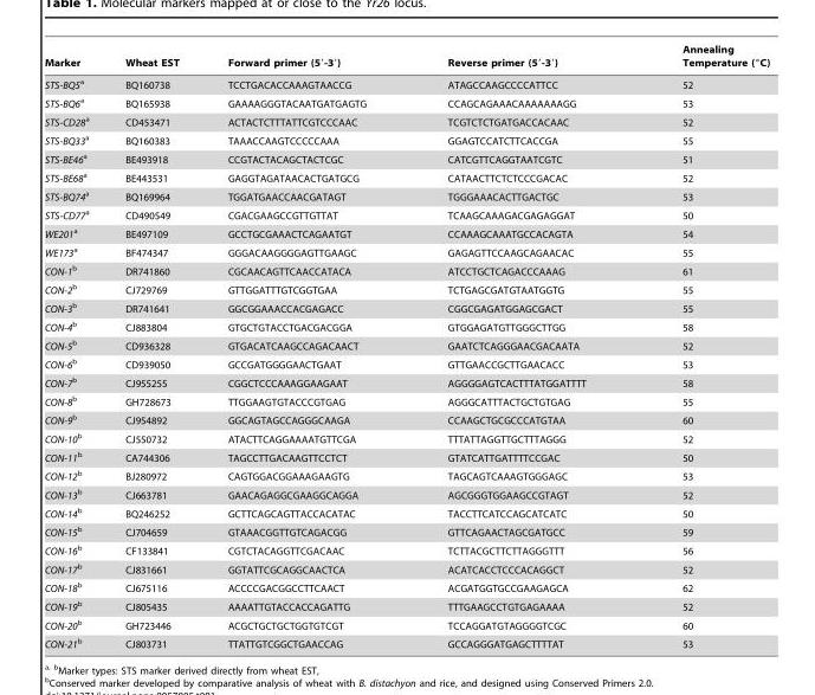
<table><thead><tr><td>Marker</td><td>Wheat EST</td><td>Forward primer (5′-3′)</td><td>Reverse primer (5′-3′)</td><td>Annealing Temperature (°C)</td></tr></thead><tbody><tr><td>STS-BQ5<sup>a</sup></td><td>BQ160738</td><td>TCCTGACACCAAAGTAACCG</td><td>ATAGCCAAGCCCCATTCC</td><td>52</td></tr><tr><td>STS-BQ6<sup>a</sup></td><td>BQ165938</td><td>GAAAAGGGTACAATGATGAGTG</td><td>CCAGCAGAAACAAAAAAAGG</td><td>53</td></tr><tr><td>STS-CD28<sup>a</sup></td><td>CD453471</td><td>ACTACTCTTTATTCGTCCCAAC</td><td>TCGTCTCTGATGACCACAAC</td><td>52</td></tr><tr><td>STS-BQ33<sup>a</sup></td><td>BQ160383</td><td>TAAACCAAGTCCCCCAAA</td><td>GGAGTCCATCTTCACCGA</td><td>55</td></tr><tr><td>STS-BE46<sup>a</sup></td><td>BE493918</td><td>CCGTACTACAGCTACTCGC</td><td>CATCGTTCAGGTAATCGTC</td><td>51</td></tr><tr><td>STS-BE68<sup>a</sup></td><td>BE443531</td><td>GAGGTAGATAACACTGATGCG</td><td>CATAACTTCTCTCCCGACAC</td><td>52</td></tr><tr><td>STS-BQ74<sup>a</sup></td><td>BQ169964</td><td>TGGATGAACCAACGATAGT</td><td>TGGGAAACACTTGACTGC</td><td>53</td></tr><tr><td>STS-CD77<sup>a</sup></td><td>CD490549</td><td>CGACGAAGCCGTTGTTAT</td><td>TCAAGCAAAGACGAGAGGAT</td><td>50</td></tr><tr><td>WE201<sup>a</sup></td><td>BE497109</td><td>GCCTGCGAAACTCAGAATGT</td><td>CCAAAGCAAATGCCACAGTA</td><td>54</td></tr><tr><td>WE173<sup>a</sup></td><td>BF474347</td><td>GGGACAAGGGGAGTTGAAGC</td><td>GAGAGTTCCAAGCAGAACAC</td><td>55</td></tr><tr><td>CON-1b</td><td>DR741860</td><td>CGCAACAGTTCAACCATACA</td><td>ATCCTGCTCAGACCCAAAG</td><td>61</td></tr><tr><td>CON-2b</td><td>CJ729769</td><td>GTTGGATTTGTCGGTGAA</td><td>TCTGAGCGATGTAATGGTG</td><td>55</td></tr><tr><td>CON-3b</td><td>DR741641</td><td>GGCGGAAACCACGAGACC</td><td>CGGCGAGATGGAGCGACT</td><td>55</td></tr><tr><td>CON-4b</td><td>CJ883804</td><td>GTGCTGTACCTGACGACGGA</td><td>GTGGAGATGTTGGGCTTGG</td><td>58</td></tr><tr><td>CON-5b</td><td>CD936328</td><td>GTGACATCAAGCCAGACAACT</td><td>GAATCTCAGGGAACGACAATA</td><td>52</td></tr><tr><td>CON-6b</td><td>CD939050</td><td>GCCGATGGGGAACTGAAT</td><td>GTTGAACCGCTTGAACACC</td><td>53</td></tr><tr><td>CON-7b</td><td>CJ955255</td><td>CGGCTCCCAAAGGAAGAAT</td><td>AGGGGAGTCACTTTATGGATTTT</td><td>58</td></tr><tr><td>CON-8b</td><td>GH728673</td><td>TTGGAAGTGTACCCGTGAG</td><td>AGGGCATTTACTGCTGTGAG</td><td>55</td></tr><tr><td>CON-9b</td><td>CJ954892</td><td>GGCAGTAGCCAGGGCAAGA</td><td>CCAAGCTGCGCCCATGTAA</td><td>60</td></tr><tr><td>CON-10b</td><td>CJ550732</td><td>ATACTTCAGGAAAATGTTCGA</td><td>TTTATTAGGTTGCTTTAGGG</td><td>52</td></tr><tr><td>CON-11b</td><td>CA744306</td><td>TAGCCTTGACAAGTTCCTCT</td><td>GTATCATTGATTTTCCGAC</td><td>50</td></tr><tr><td>CON-12b</td><td>BJ280972</td><td>CAGTGGACGGAAAGAAGTG</td><td>TAGCAGTCAAAGTGGGAGC</td><td>53</td></tr><tr><td>CON-13b</td><td>CJ663781</td><td>GAACAGAGGCGAAGGCAGGA</td><td>AGCGGGTGGAAGCCGTAGT</td><td>52</td></tr><tr><td>CON-14b</td><td>BQ246252</td><td>GCTTCAGCAGTTACCACATAC</td><td>TACCTTCATCCAGCATCATC</td><td>50</td></tr><tr><td>CON-15b</td><td>CJ704659</td><td>GTAAACGGTTGTCAGACGG</td><td>GTTCAGAACTAGCGATGCC</td><td>59</td></tr><tr><td>CON-16b</td><td>CF133841</td><td>CGTCTACAGGTTCGACAAC</td><td>TCTTACGCTTCTTAGGGTTT</td><td>56</td></tr><tr><td>CON-17b</td><td>CJ831661</td><td>GGTATTCGCAGGCAACTCA</td><td>ACATCACCTCCCACAGGCT</td><td>52</td></tr><tr><td>CON-18b</td><td>CJ675116</td><td>ACCCCGACGGCCTTCAACT</td><td>ACGATGGTGCCGAAGAGCA</td><td>62</td></tr><tr><td>CON-19b</td><td>CJ805435</td><td>AAAATTGTACCACCAGATTG</td><td>TTTGAAGCCTGTGAGAAAA</td><td>52</td></tr><tr><td>CON-20b</td><td>GH723446</td><td>ACGCTGCTGCTGGTGTCGT</td><td>TCCAGGATGTAGGGGTCGC</td><td>60</td></tr><tr><td>CON-21b</td><td>CJ803731</td><td>TTATTGTCGGCTGAACCAG</td><td>GCCAGGGATGAGCTTTTAT</td><td>53</td></tr></tbody></table>